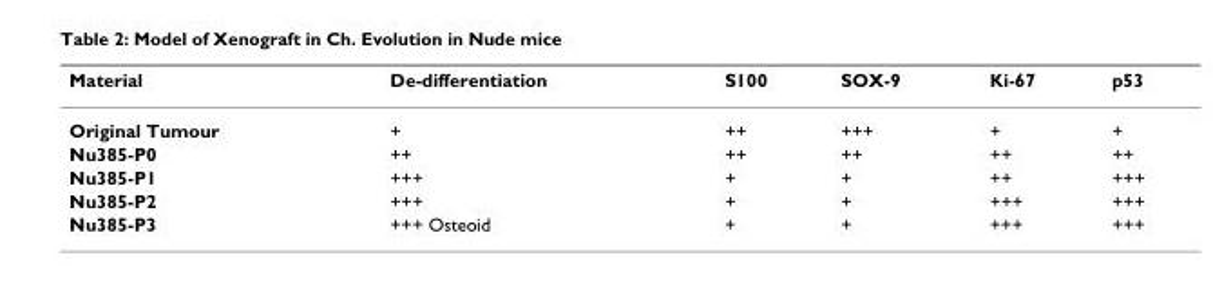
<table><thead><tr><td>Material</td><td>De-differentiation</td><td>S100</td><td>SOX-9</td><td>Ki-67</td><td>p53</td></tr></thead><tbody><tr><td>Original Tumour</td><td>+</td><td>++</td><td>+++</td><td>+</td><td>+</td></tr><tr><td>Nu385-P0</td><td>++</td><td>++</td><td>++</td><td>++</td><td>++</td></tr><tr><td>Nu385-P1</td><td>+++</td><td>+</td><td>+</td><td>++</td><td>+++</td></tr><tr><td>Nu385-P2</td><td>+++</td><td>+</td><td>+</td><td>+++</td><td>+++</td></tr><tr><td>Nu385-P3</td><td>+++ Osteoid</td><td>+</td><td>+</td><td>+++</td><td>+++</td></tr></tbody></table>